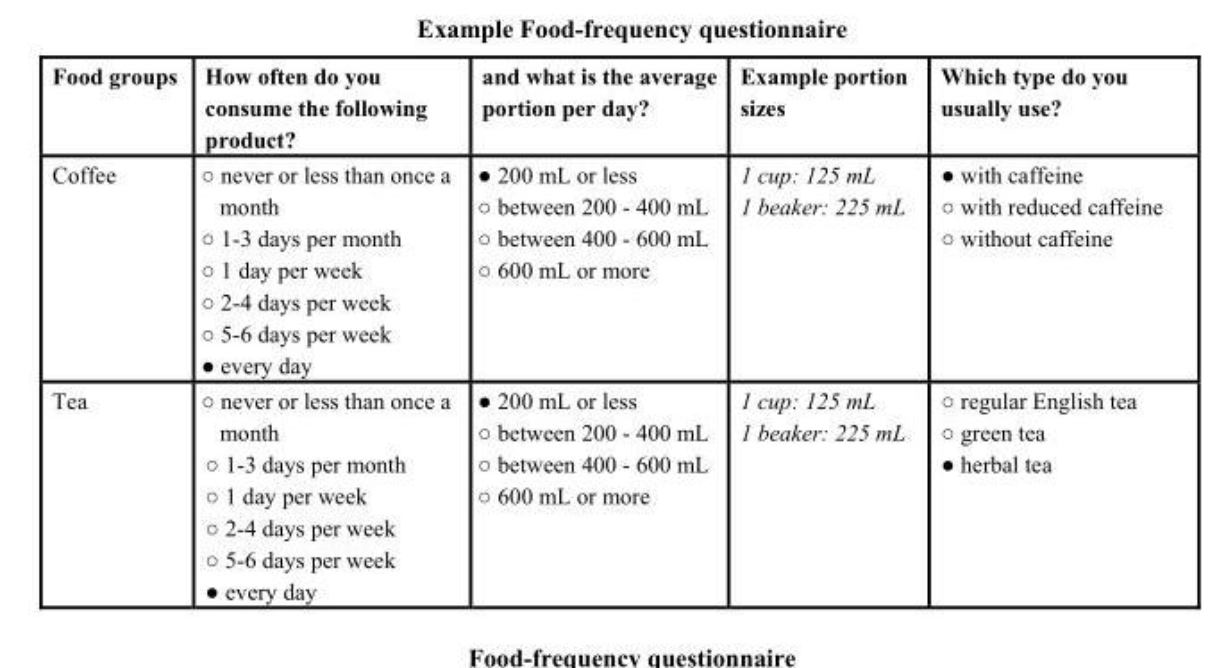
<table><thead><tr><td>Food groups</td><td>How often do you consume the following product?</td><td>and what is the average portion per day?</td><td>Example portion sizes</td><td>Which type do you usually use?</td></tr></thead><tbody><tr><td>Coffee</td><td>○ never or less than once a month ○ 1-3 days per month ○ 1 day per week ○ 2-4 days per week ○ 5-6 days per week ● every day</td><td>● 200 mL or less ○ between 200 - 400 mL ○ between 400 - 600 mL ○ 600 mL or more</td><td>1 cup: 125 mL 1 beaker: 225 mL</td><td>● with caffeine ○ with reduced caffeine ○ without caffeine</td></tr><tr><td>Tea</td><td>○ never or less than once a month ○ 1-3 days per month ○ 1 day per week ○ 2-4 days per week ○ 5-6 days per week ● every day</td><td>● 200 mL or less ○ between 200 - 400 mL ○ between 400 - 600 mL ○ 600 mL or more</td><td>1 cup: 125 mL 1 beaker: 225 mL</td><td>○ regular English tea ○ green tea ● herbal tea</td></tr></tbody></table>